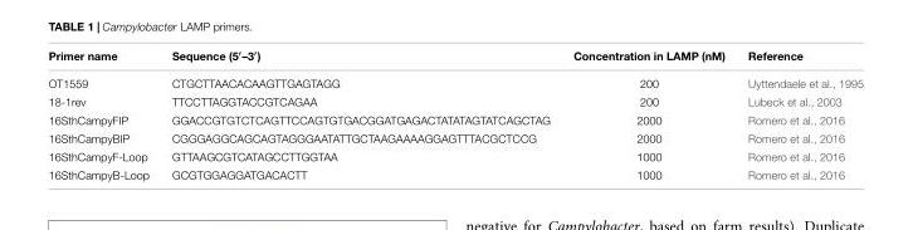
<table><thead><tr><td>Primer name</td><td>Sequence (5′–3′)</td><td>Concentration in LAMP (nM)</td><td>Reference</td></tr></thead><tbody><tr><td>OT1559</td><td>CTGCTTAACACAAGTTGAGTAGG</td><td>200</td><td>Uyttendaele et al., 1995</td></tr><tr><td>18-1rev</td><td>TTCCTTAGGTACCGTCAGAA</td><td>200</td><td>Lubeck et al., 2003</td></tr><tr><td>16SthCampyFIP</td><td>GGACCGTGTCTCAGTTCCAGTGTGACGGATGAGACTATATAGTATCAGCTAG</td><td>2000</td><td>Romero et al., 2016</td></tr><tr><td>16SthCampyBIP</td><td>CGGGAGGCAGCAGTAGGGAATATTGCTAAGAAAAGGAGTTTACGCTCCG</td><td>2000</td><td>Romero et al., 2016</td></tr><tr><td>16SthCampyF-Loop</td><td>GTTAAGCGTCATAGCCTTGGTAA</td><td>1000</td><td>Romero et al., 2016</td></tr><tr><td>16SthCampyB-Loop</td><td>GCGTGGAGGATGACACTT</td><td>1000</td><td>Romero et al., 2016</td></tr></tbody></table>